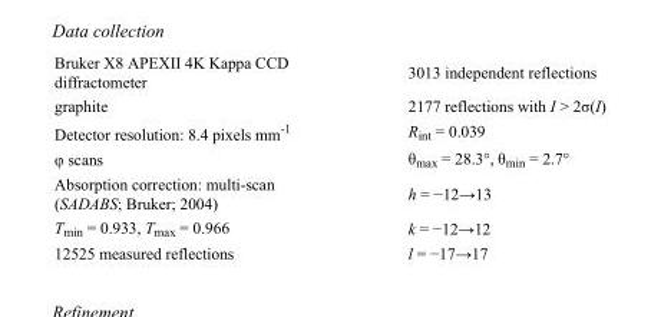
<table><tbody><tr><td>Bruker X8 APEXII 4K Kappa CCD diffractometer</td><td>3013 independent reflections</td></tr><tr><td>graphite</td><td>2177 reflections with I &gt; 2σ(I)</td></tr><tr><td>Detector resolution: 8.4 pixels mm<sup>-1</sup></td><td>R<sub>int</sub> = 0.039</td></tr><tr><td>φ scans</td><td>θ<sub>max</sub> = 28.3°, θ<sub>min</sub> = 2.7°</td></tr><tr><td>Absorption correction: multi-scan (SADABS; Bruker; 2004)</td><td>h = −12→13</td></tr><tr><td>T<sub>min</sub> = 0.933, T<sub>max</sub> = 0.966</td><td>k = −12→12</td></tr><tr><td>12525 measured reflections</td><td>l = −17→17</td></tr></tbody></table>